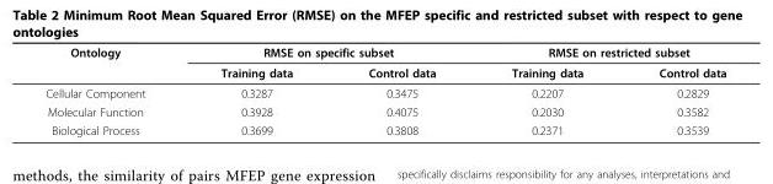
<table><thead><tr><td rowspan="2">Ontology</td><td colspan="2">RMSE on specific subset</td><td colspan="2">RMSE on restricted subset</td></tr><tr><td>Training data</td><td>Control data</td><td>Training data</td><td>Control data</td></tr></thead><tbody><tr><td>Cellular Component</td><td>0.3287</td><td>0.3475</td><td>0.2207</td><td>0.2829</td></tr><tr><td>Molecular Function</td><td>0.3928</td><td>0.4075</td><td>0.2030</td><td>0.3582</td></tr><tr><td>Biological Process</td><td>0.3699</td><td>0.3808</td><td>0.2371</td><td>0.3539</td></tr></tbody></table>